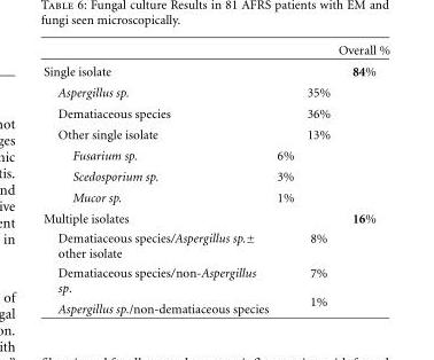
<table><thead><tr><td></td><td></td><td></td><td>Overall %</td></tr></thead><tbody><tr><td>Single isolate</td><td></td><td></td><td>84%</td></tr><tr><td>Aspergillus sp.</td><td></td><td>35%</td><td></td></tr><tr><td>Dematiaceous species</td><td></td><td>36%</td><td></td></tr><tr><td>Other single isolate</td><td></td><td>13%</td><td></td></tr><tr><td>Fusarium sp.</td><td>6%</td><td></td><td></td></tr><tr><td>Scedosporium sp.</td><td>3%</td><td></td><td></td></tr><tr><td>Mucor sp.</td><td>1%</td><td></td><td></td></tr><tr><td>Multiple isolates</td><td></td><td></td><td>16%</td></tr><tr><td>Dematiaceous species/Aspergillus sp.± other isolate</td><td></td><td>8%</td><td></td></tr><tr><td>Dematiaceous species/non-Aspergillus sp.</td><td></td><td>7%</td><td></td></tr><tr><td>Aspergillus sp./non-dematiaceous species</td><td></td><td>1%</td><td></td></tr></tbody></table>